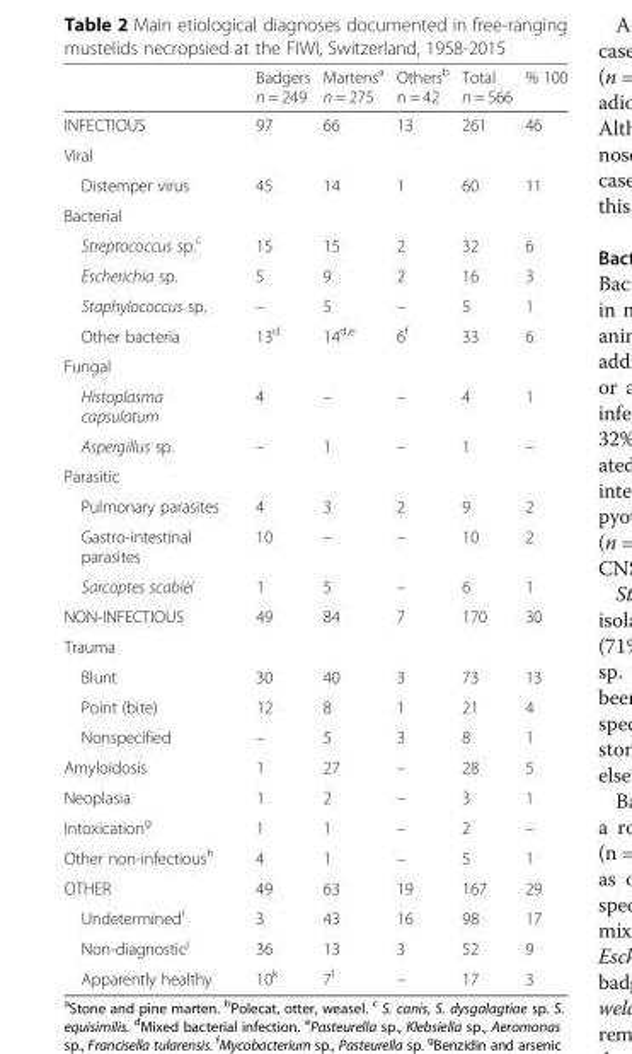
<table><thead><tr><td></td><td>Badgers n = 249</td><td>Martens<sup>a</sup> n = 275</td><td>Others<sup>b</sup> n = 42</td><td>Total n = 566</td><td>% 100</td></tr></thead><tbody><tr><td>INFECTIOUS</td><td>97</td><td>66</td><td>13</td><td>261</td><td>46</td></tr><tr><td colspan="6">Viral</td></tr><tr><td>Distemper virus</td><td>45</td><td>14</td><td>1</td><td>60</td><td>11</td></tr><tr><td colspan="6">Bacterial</td></tr><tr><td>Streptococcus sp.<sup>c</sup></td><td>15</td><td>15</td><td>2</td><td>32</td><td>6</td></tr><tr><td>Escherichia sp.</td><td>5</td><td>9</td><td>2</td><td>16</td><td>3</td></tr><tr><td>Staphylococcus sp.</td><td>–</td><td>5</td><td>–</td><td>5</td><td>1</td></tr><tr><td>Other bacteria</td><td>13<sup>d</sup></td><td>14<sup>d,e</sup></td><td>6<sup>f</sup></td><td>33</td><td>6</td></tr><tr><td colspan="6">Fungal</td></tr><tr><td>Histoplasma capsulatum</td><td>4</td><td>–</td><td>–</td><td>4</td><td>1</td></tr><tr><td>Aspergillus sp.</td><td>–</td><td>1</td><td>–</td><td>1</td><td>–</td></tr><tr><td colspan="6">Parasitic</td></tr><tr><td>Pulmonary parasites</td><td>4</td><td>3</td><td>2</td><td>9</td><td>2</td></tr><tr><td>Gastro-intestinal parasites</td><td>10</td><td>–</td><td>–</td><td>10</td><td>2</td></tr><tr><td>Sarcoptes scabiei</td><td>1</td><td>5</td><td>–</td><td>6</td><td>1</td></tr><tr><td>NON-INFECTIOUS</td><td>49</td><td>84</td><td>7</td><td>170</td><td>30</td></tr><tr><td colspan="6">Trauma</td></tr><tr><td>Blunt</td><td>30</td><td>40</td><td>3</td><td>73</td><td>13</td></tr><tr><td>Point (bite)</td><td>12</td><td>8</td><td>1</td><td>21</td><td>4</td></tr><tr><td>Nonspecified</td><td>–</td><td>5</td><td>3</td><td>8</td><td>1</td></tr><tr><td>Amyloidosis</td><td>1</td><td>27</td><td>–</td><td>28</td><td>5</td></tr><tr><td>Neoplasia</td><td>1</td><td>2</td><td>–</td><td>3</td><td>1</td></tr><tr><td>Intoxication<sup>g</sup></td><td>1</td><td>1</td><td>–</td><td>2</td><td>–</td></tr><tr><td>Other non-infectious<sup>h</sup></td><td>4</td><td>1</td><td>–</td><td>5</td><td>1</td></tr><tr><td>OTHER</td><td>49</td><td>63</td><td>19</td><td>167</td><td>29</td></tr><tr><td>Undetermined<sup>i</sup></td><td>3</td><td>43</td><td>16</td><td>98</td><td>17</td></tr><tr><td>Non-diagnostic<sup>j</sup></td><td>36</td><td>13</td><td>3</td><td>52</td><td>9</td></tr><tr><td>Apparently healthy</td><td>10<sup>k</sup></td><td>7<sup>l</sup></td><td>–</td><td>17</td><td>3</td></tr></tbody></table>